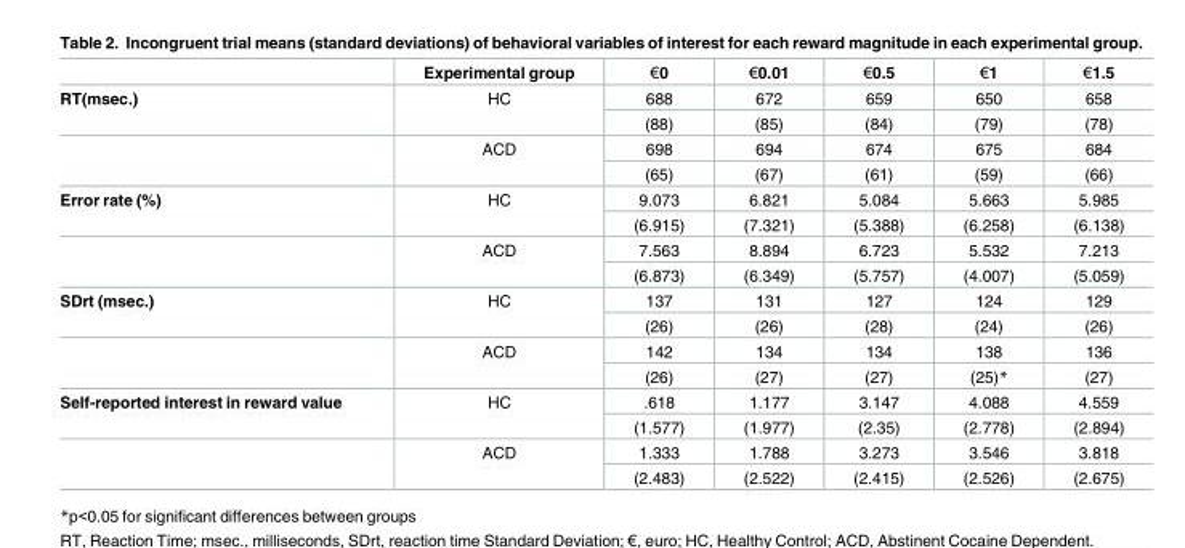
<table><thead><tr><td></td><td>Experimental group</td><td>€0</td><td>€0.01</td><td>€0.5</td><td>€1</td><td>€1.5</td></tr></thead><tbody><tr><td rowspan="4">RT(msec.)</td><td rowspan="2">HC</td><td>688</td><td>672</td><td>659</td><td>650</td><td>658</td></tr><tr><td>(88)</td><td>(85)</td><td>(84)</td><td>(79)</td><td>(78)</td></tr><tr><td rowspan="2">ACD</td><td>698</td><td>694</td><td>674</td><td>675</td><td>684</td></tr><tr><td>(65)</td><td>(67)</td><td>(61)</td><td>(59)</td><td>(66)</td></tr><tr><td rowspan="4">Error rate (%)</td><td rowspan="2">HC</td><td>9.073</td><td>6.821</td><td>5.084</td><td>5.663</td><td>5.985</td></tr><tr><td>(6.915)</td><td>(7.321)</td><td>(5.388)</td><td>(6.258)</td><td>(6.138)</td></tr><tr><td rowspan="2">ACD</td><td>7.563</td><td>8.894</td><td>6.723</td><td>5.532</td><td>7.213</td></tr><tr><td>(6.873)</td><td>(6.349)</td><td>(5.757)</td><td>(4.007)</td><td>(5.059)</td></tr><tr><td rowspan="4">SDrt (msec.)</td><td rowspan="2">HC</td><td>137</td><td>131</td><td>127</td><td>124</td><td>129</td></tr><tr><td>(26)</td><td>(26)</td><td>(28)</td><td>(24)</td><td>(26)</td></tr><tr><td rowspan="2">ACD</td><td>142</td><td>134</td><td>134</td><td>138</td><td>136</td></tr><tr><td>(26)</td><td>(27)</td><td>(27)</td><td>(25)*</td><td>(27)</td></tr><tr><td rowspan="4">Self-reported interest in reward value</td><td rowspan="2">HC</td><td>.618</td><td>1.177</td><td>3.147</td><td>4.088</td><td>4.559</td></tr><tr><td>(1.577)</td><td>(1.977)</td><td>(2.35)</td><td>(2.778)</td><td>(2.894)</td></tr><tr><td rowspan="2">ACD</td><td>1.333</td><td>1.788</td><td>3.273</td><td>3.546</td><td>3.818</td></tr><tr><td>(2.483)</td><td>(2.522)</td><td>(2.415)</td><td>(2.526)</td><td>(2.675)</td></tr></tbody></table>